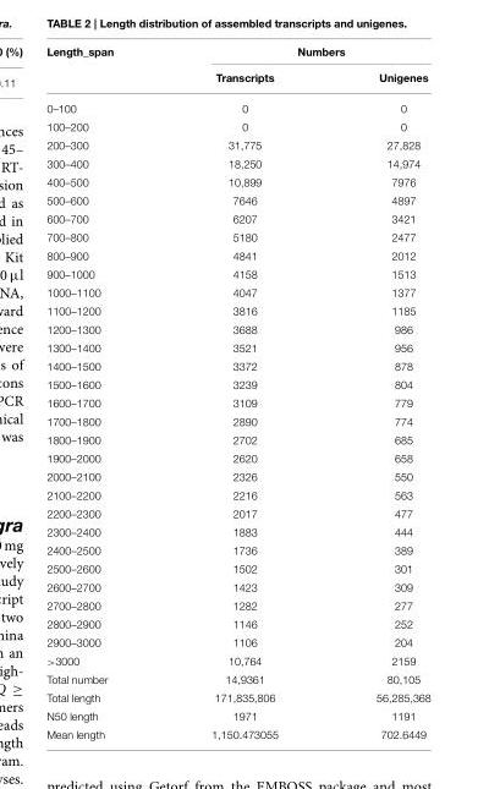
<table><thead><tr><td rowspan="2">Length_span</td><td colspan="2">Numbers</td></tr><tr><td>Transcripts</td><td>Unigenes</td></tr></thead><tbody><tr><td>0–100</td><td>0</td><td>0</td></tr><tr><td>100–200</td><td>0</td><td>0</td></tr><tr><td>200–300</td><td>31,775</td><td>27,828</td></tr><tr><td>300–400</td><td>18,250</td><td>14,974</td></tr><tr><td>400–500</td><td>10,899</td><td>7976</td></tr><tr><td>500–600</td><td>7646</td><td>4897</td></tr><tr><td>600–700</td><td>6207</td><td>3421</td></tr><tr><td>700–800</td><td>5180</td><td>2477</td></tr><tr><td>800–900</td><td>4841</td><td>2012</td></tr><tr><td>900–1000</td><td>4158</td><td>1513</td></tr><tr><td>1000–1100</td><td>4047</td><td>1377</td></tr><tr><td>1100–1200</td><td>3816</td><td>1185</td></tr><tr><td>1200–1300</td><td>3688</td><td>986</td></tr><tr><td>1300–1400</td><td>3521</td><td>956</td></tr><tr><td>1400–1500</td><td>3372</td><td>878</td></tr><tr><td>1500–1600</td><td>3239</td><td>804</td></tr><tr><td>1600–1700</td><td>3109</td><td>779</td></tr><tr><td>1700–1800</td><td>2890</td><td>774</td></tr><tr><td>1800–1900</td><td>2702</td><td>685</td></tr><tr><td>1900–2000</td><td>2620</td><td>658</td></tr><tr><td>2000–2100</td><td>2326</td><td>550</td></tr><tr><td>2100–2200</td><td>2216</td><td>563</td></tr><tr><td>2200–2300</td><td>2017</td><td>477</td></tr><tr><td>2300–2400</td><td>1883</td><td>444</td></tr><tr><td>2400–2500</td><td>1736</td><td>389</td></tr><tr><td>2500–2600</td><td>1502</td><td>301</td></tr><tr><td>2600–2700</td><td>1423</td><td>309</td></tr><tr><td>2700–2800</td><td>1282</td><td>277</td></tr><tr><td>2800–2900</td><td>1146</td><td>252</td></tr><tr><td>2900–3000</td><td>1106</td><td>204</td></tr><tr><td>&gt;3000</td><td>10,764</td><td>2159</td></tr><tr><td>Total number</td><td>14,9361</td><td>80,105</td></tr><tr><td>Total length</td><td>171,835,806</td><td>56,285,368</td></tr><tr><td>N50 length</td><td>1971</td><td>1191</td></tr><tr><td>Mean length</td><td>1,150.473055</td><td>702.6449</td></tr></tbody></table>